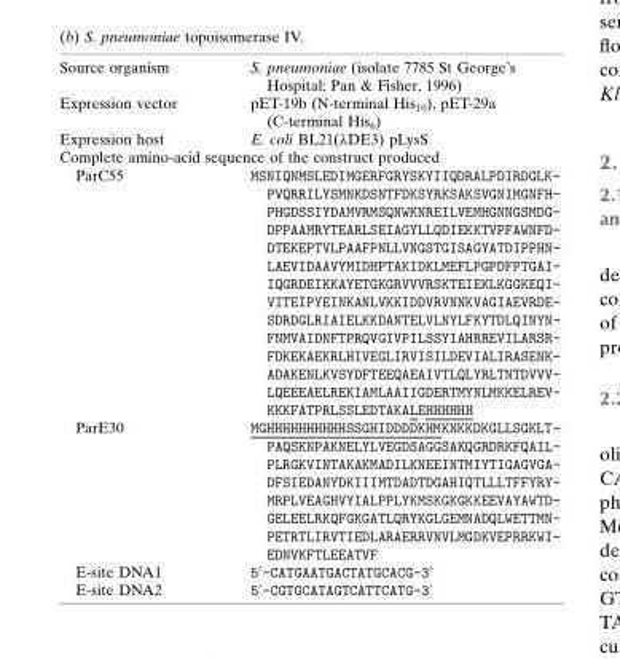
<table><tbody><tr><td>Source organism</td><td>S. pneumoniae (isolate 7785 St George’s Hospital; Pan &amp; Fisher, 1996)</td></tr><tr><td>Expression vector</td><td>pET-19b (N-terminal His<sub>10</sub>), pET-29a (C-terminal His<sub>6</sub>)</td></tr><tr><td>Expression host</td><td>E. coli BL21(λDE3) pLysS</td></tr><tr><td colspan="2">Complete amino-acid sequence of the construct produced</td></tr><tr><td>ParC55</td><td>MSNIQNMSLEDIMGERFGRYSKYIIQDRALPDIRDGLK- PVQRRILYSMNKDSNTFDKSYRKSAKSVGNIMGNFH- PHGDSSIYDAMVRMSQNWKNREILVEMHGNNGSMDG- DPPAAMRYTEARLSEIAGYLLQDIEKKTVPFAWNFD- DTEKEPTVLPAAFPNLLVNGSTGISAGYATDIPPHN- LAEVIDAAVYMIDHPTAKIDKLMEFLPGPDFPTGAI- IQGRDEIKKAYETGKGRVVVRSKTEIEKLKGGKEQI- VITEIPYEINKANLVKKIDDVRVNNKVAGIAEVRDE- SDRDGLRIAIELKKDANTELVLNYLFKYTDLQINYN- FNMVAIDNFTPRQVGIVPILSSYIAHRREVILARSR- FDKEKAEKRLHIVEGLIRVISILDEVIALIRASENK- ADAKENLKVSYDFTEEQAEAIVTLQLYRLTNTDVVV- LQEEEAELREKIAMLAAIIGDERTMYNLMKKELREV- KKKFATPRLSSLEDTAKALEHHHHHH</td></tr><tr><td>ParE30</td><td>MGHHHHHHHHHHSSGHIDDDDKHMKNKKDKGLLSGKLT- PAQSKNPAKNELYLVEGDSAGGSAKQGRDRKFQAIL- PLRGKVINTAKAKMADILKNEEINTMIYTIGAGVGA- DFSIEDANYDKIIIMTDADTDGAHIQTLLLTFFYRY- MRPLVEAGHVYIALPPLYKMSKGKGKKEEVAYAWTD- GELEELRKQFGKGATLQRYKGLGEMNADQLWETTMN- PETRTLIRVTIEDLARAERRVNVLMGDKVEPRRKWI- EDNVKFTLEEATVF</td></tr><tr><td>E-site DNA1</td><td>5′-CATGAATGACTATGCACG-3′</td></tr><tr><td>E-site DNA2</td><td>5′-CGTGCATAGTCATTCATG-3′</td></tr></tbody></table>